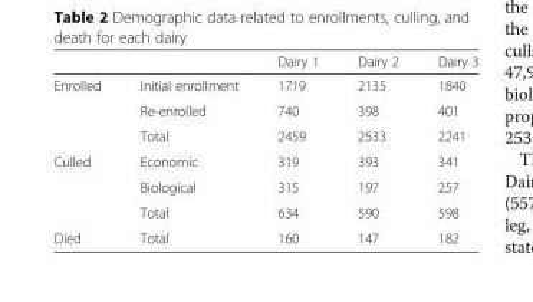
<table><thead><tr><td></td><td></td><td>Dairy 1</td><td>Dairy 2</td><td>Dairy 3</td></tr></thead><tbody><tr><td rowspan="3">Enrolled</td><td>Initial enrollment</td><td>1719</td><td>2135</td><td>1840</td></tr><tr><td>Re-enrolled</td><td>740</td><td>398</td><td>401</td></tr><tr><td>Total</td><td>2459</td><td>2533</td><td>2241</td></tr><tr><td rowspan="3">Culled</td><td>Economic</td><td>319</td><td>393</td><td>341</td></tr><tr><td>Biological</td><td>315</td><td>197</td><td>257</td></tr><tr><td>Total</td><td>634</td><td>590</td><td>598</td></tr><tr><td>Died</td><td>Total</td><td>160</td><td>147</td><td>182</td></tr></tbody></table>